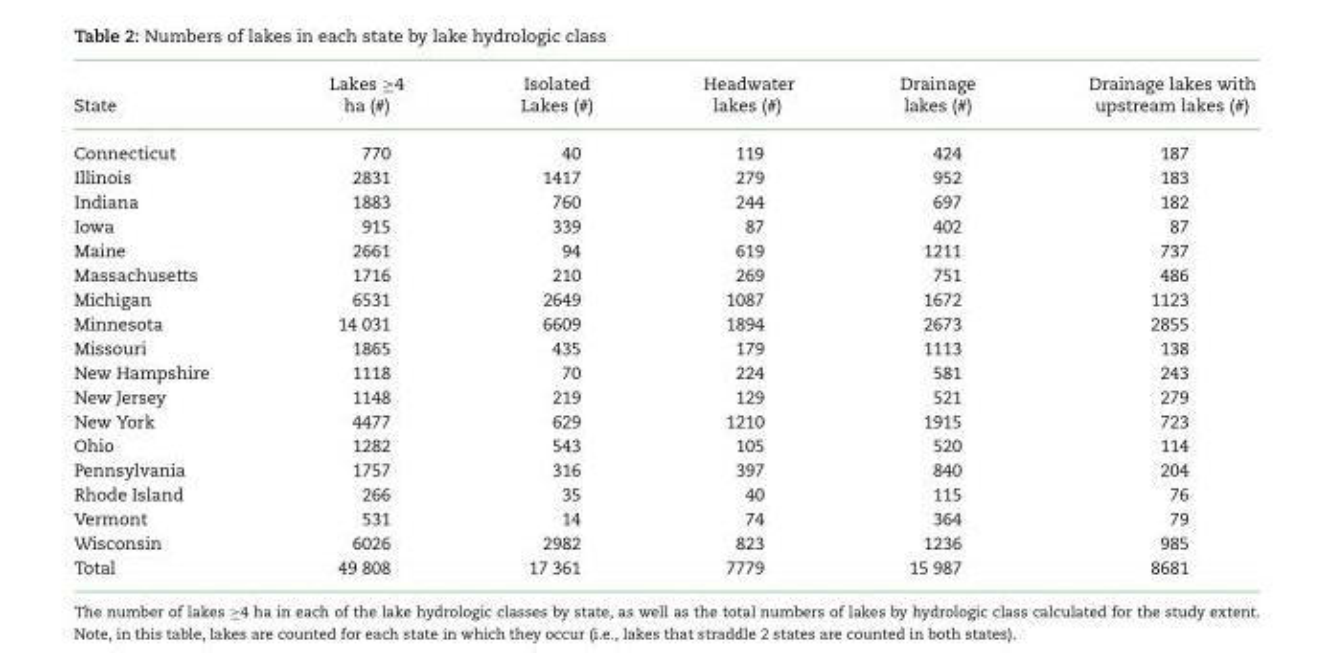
<table><thead><tr><td>State</td><td>Lakes ≥4 ha (#)</td><td>Isolated Lakes (#)</td><td>Headwater lakes (#)</td><td>Drainage lakes (#)</td><td>Drainage lakes with upstream lakes (#)</td></tr></thead><tbody><tr><td>Connecticut</td><td>770</td><td>40</td><td>119</td><td>424</td><td>187</td></tr><tr><td>Illinois</td><td>2831</td><td>1417</td><td>279</td><td>952</td><td>183</td></tr><tr><td>Indiana</td><td>1883</td><td>760</td><td>244</td><td>697</td><td>182</td></tr><tr><td>Iowa</td><td>915</td><td>339</td><td>87</td><td>402</td><td>87</td></tr><tr><td>Maine</td><td>2661</td><td>94</td><td>619</td><td>1211</td><td>737</td></tr><tr><td>Massachusetts</td><td>1716</td><td>210</td><td>269</td><td>751</td><td>486</td></tr><tr><td>Michigan</td><td>6531</td><td>2649</td><td>1087</td><td>1672</td><td>1123</td></tr><tr><td>Minnesota</td><td>14 031</td><td>6609</td><td>1894</td><td>2673</td><td>2855</td></tr><tr><td>Missouri</td><td>1865</td><td>435</td><td>179</td><td>1113</td><td>138</td></tr><tr><td>New Hampshire</td><td>1118</td><td>70</td><td>224</td><td>581</td><td>243</td></tr><tr><td>New Jersey</td><td>1148</td><td>219</td><td>129</td><td>521</td><td>279</td></tr><tr><td>New York</td><td>4477</td><td>629</td><td>1210</td><td>1915</td><td>723</td></tr><tr><td>Ohio</td><td>1282</td><td>543</td><td>105</td><td>520</td><td>114</td></tr><tr><td>Pennsylvania</td><td>1757</td><td>316</td><td>397</td><td>840</td><td>204</td></tr><tr><td>Rhode Island</td><td>266</td><td>35</td><td>40</td><td>115</td><td>76</td></tr><tr><td>Vermont</td><td>531</td><td>14</td><td>74</td><td>364</td><td>79</td></tr><tr><td>Wisconsin</td><td>6026</td><td>2982</td><td>823</td><td>1236</td><td>985</td></tr><tr><td>Total</td><td>49 808</td><td>17 361</td><td>7779</td><td>15 987</td><td>8681</td></tr></tbody></table>